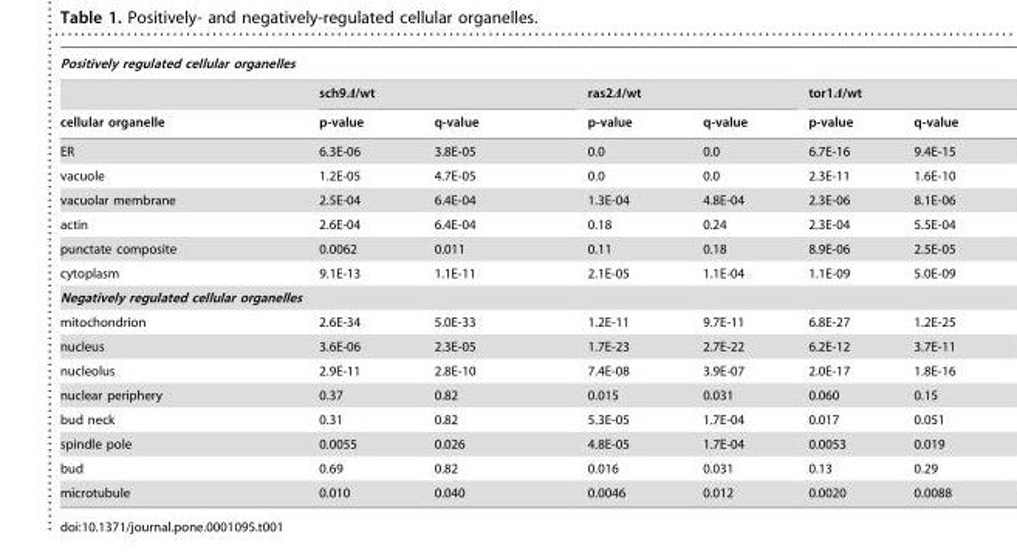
<table><thead><tr><td colspan="7">Positively regulated cellular organelles</td></tr><tr><td rowspan="2">cellular organelle</td><td colspan="2">sch9Δ/wt</td><td colspan="2">ras2Δ/wt</td><td colspan="2">tor1Δ/wt</td></tr><tr><td>p-value</td><td>q-value</td><td>p-value</td><td>q-value</td><td>p-value</td><td>q-value</td></tr></thead><tbody><tr><td>ER</td><td>6.3E-06</td><td>3.8E-05</td><td>0.0</td><td>0.0</td><td>6.7E-16</td><td>9.4E-15</td></tr><tr><td>vacuole</td><td>1.2E-05</td><td>4.7E-05</td><td>0.0</td><td>0.0</td><td>2.3E-11</td><td>1.6E-10</td></tr><tr><td>vacuolar membrane</td><td>2.5E-04</td><td>6.4E-04</td><td>1.3E-04</td><td>4.8E-04</td><td>2.3E-06</td><td>8.1E-06</td></tr><tr><td>actin</td><td>2.6E-04</td><td>6.4E-04</td><td>0.18</td><td>0.24</td><td>2.3E-04</td><td>5.5E-04</td></tr><tr><td>punctate composite</td><td>0.0062</td><td>0.011</td><td>0.11</td><td>0.18</td><td>8.9E-06</td><td>2.5E-05</td></tr><tr><td>cytoplasm</td><td>9.1E-13</td><td>1.1E-11</td><td>2.1E-05</td><td>1.1E-04</td><td>1.1E-09</td><td>5.0E-09</td></tr><tr><td colspan="7">Negatively regulated cellular organelles</td></tr><tr><td>mitochondrion</td><td>2.6E-34</td><td>5.0E-33</td><td>1.2E-11</td><td>9.7E-11</td><td>6.8E-27</td><td>1.2E-25</td></tr><tr><td>nucleus</td><td>3.6E-06</td><td>2.3E-05</td><td>1.7E-23</td><td>2.7E-22</td><td>6.2E-12</td><td>3.7E-11</td></tr><tr><td>nucleolus</td><td>2.9E-11</td><td>2.8E-10</td><td>7.4E-08</td><td>3.9E-07</td><td>2.0E-17</td><td>1.8E-16</td></tr><tr><td>nuclear periphery</td><td>0.37</td><td>0.82</td><td>0.015</td><td>0.031</td><td>0.060</td><td>0.15</td></tr><tr><td>bud neck</td><td>0.31</td><td>0.82</td><td>5.3E-05</td><td>1.7E-04</td><td>0.017</td><td>0.051</td></tr><tr><td>spindle pole</td><td>0.0055</td><td>0.026</td><td>4.8E-05</td><td>1.7E-04</td><td>0.0053</td><td>0.019</td></tr><tr><td>bud</td><td>0.69</td><td>0.82</td><td>0.016</td><td>0.031</td><td>0.13</td><td>0.29</td></tr><tr><td>microtubule</td><td>0.010</td><td>0.040</td><td>0.0046</td><td>0.012</td><td>0.0020</td><td>0.0088</td></tr></tbody></table>